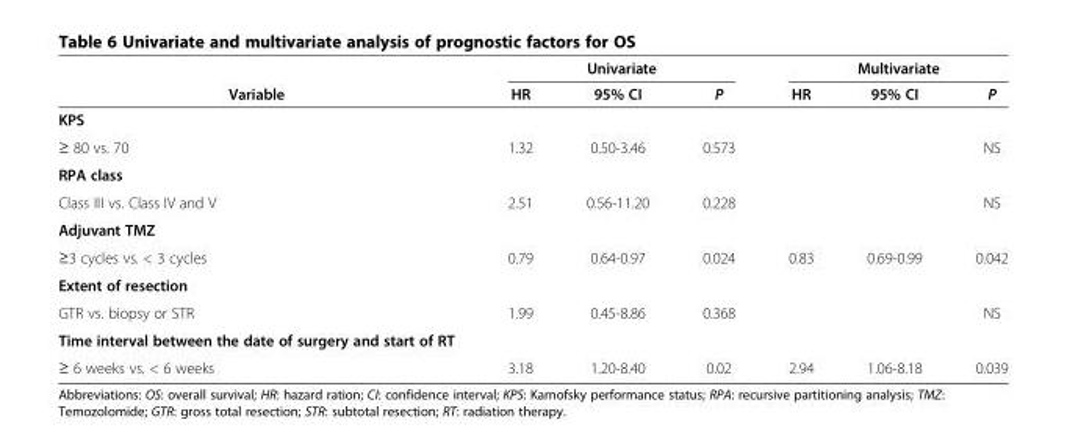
<table><thead><tr><td rowspan="2">Variable</td><td colspan="3">Univariate</td><td colspan="3">Multivariate</td></tr><tr><td>HR</td><td>95% CI</td><td>P</td><td>HR</td><td>95% CI</td><td>P</td></tr></thead><tbody><tr><td colspan="7">KPS</td></tr><tr><td>≥ 80 vs. 70</td><td>1.32</td><td>0.50-3.46</td><td>0.573</td><td></td><td></td><td>NS</td></tr><tr><td colspan="7">RPA class</td></tr><tr><td>Class III vs. Class IV and V</td><td>2.51</td><td>0.56-11.20</td><td>0.228</td><td></td><td></td><td>NS</td></tr><tr><td colspan="7">Adjuvant TMZ</td></tr><tr><td>≥3 cycles vs. &lt; 3 cycles</td><td>0.79</td><td>0.64-0.97</td><td>0.024</td><td>0.83</td><td>0.69-0.99</td><td>0.042</td></tr><tr><td colspan="7">Extent of resection</td></tr><tr><td>GTR vs. biopsy or STR</td><td>1.99</td><td>0.45-8.86</td><td>0.368</td><td></td><td></td><td>NS</td></tr><tr><td colspan="7">Time interval between the date of surgery and start of RT</td></tr><tr><td>≥ 6 weeks vs. &lt; 6 weeks</td><td>3.18</td><td>1.20-8.40</td><td>0.02</td><td>2.94</td><td>1.06-8.18</td><td>0.039</td></tr></tbody></table>